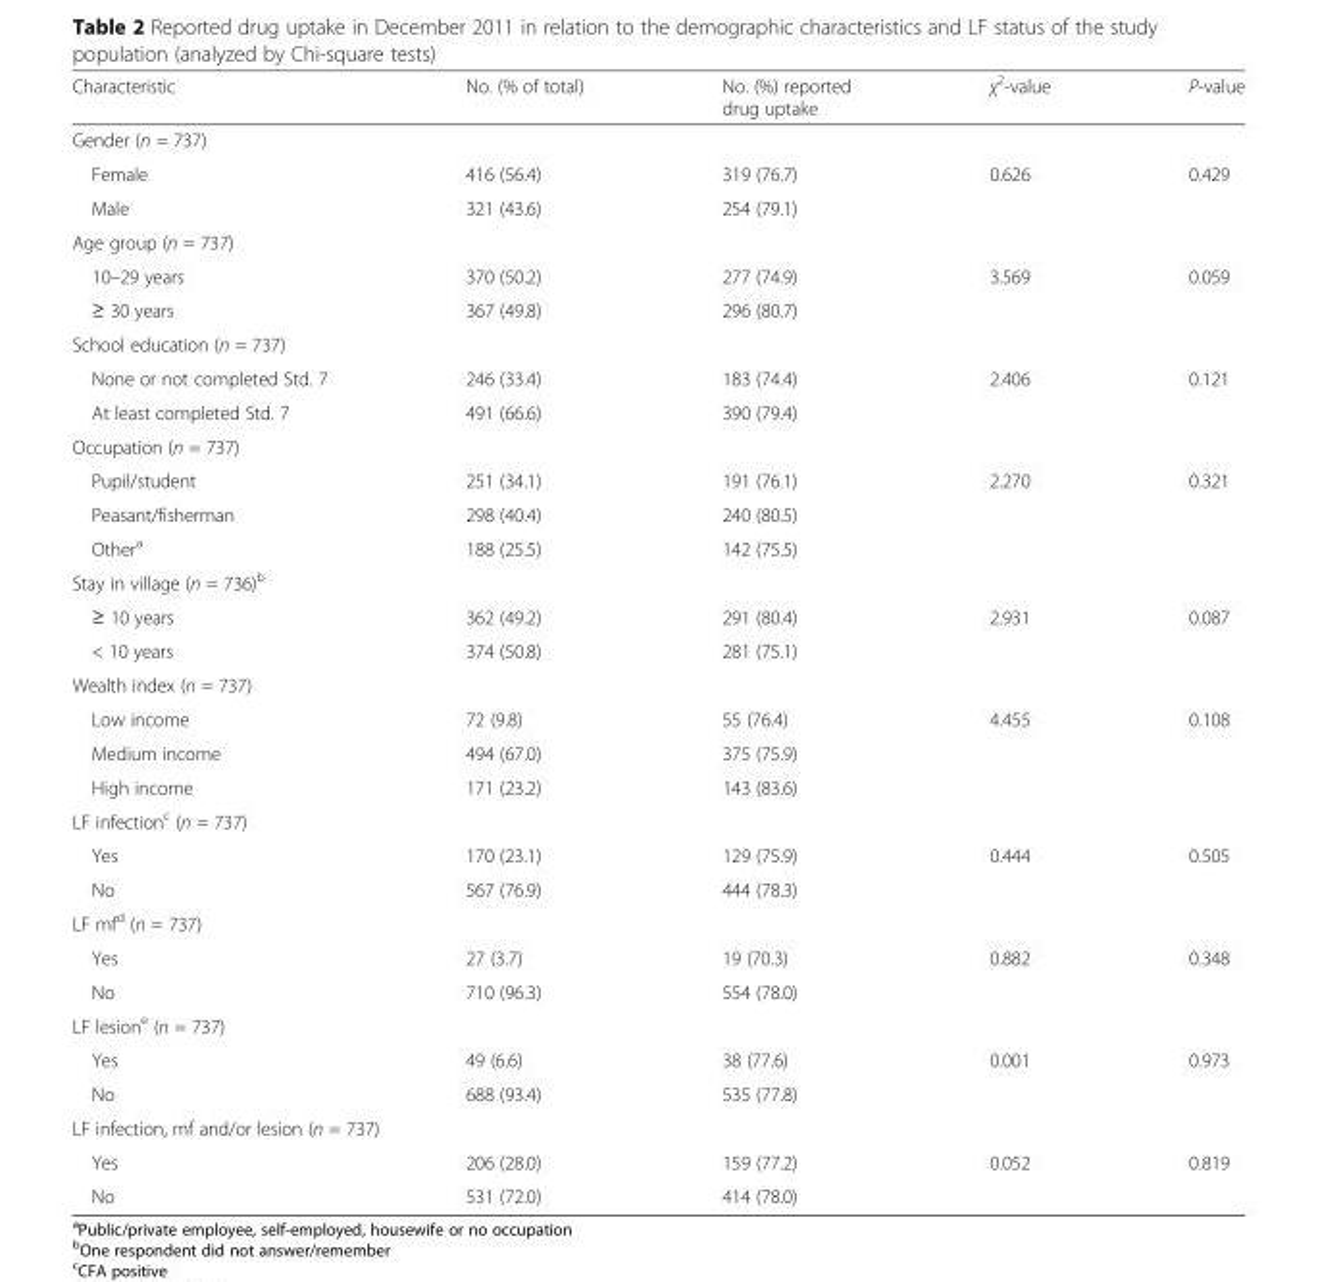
<table><thead><tr><td>Characteristic</td><td>No. (% of total)</td><td>No. (%) reported drug uptake</td><td>χ<sup>2</sup>-value</td><td>P-value</td></tr></thead><tbody><tr><td colspan="5">Gender (n = 737)</td></tr><tr><td>Female</td><td>416 (56.4)</td><td>319 (76.7)</td><td rowspan="2">0.626</td><td rowspan="2">0.429</td></tr><tr><td>Male</td><td>321 (43.6)</td><td>254 (79.1)</td></tr><tr><td colspan="5">Age group (n = 737)</td></tr><tr><td>10–29 years</td><td>370 (50.2)</td><td>277 (74.9)</td><td rowspan="2">3.569</td><td rowspan="2">0.059</td></tr><tr><td>≥ 30 years</td><td>367 (49.8)</td><td>296 (80.7)</td></tr><tr><td colspan="5">School education (n = 737)</td></tr><tr><td>None or not completed Std. 7</td><td>246 (33.4)</td><td>183 (74.4)</td><td rowspan="2">2.406</td><td rowspan="2">0.121</td></tr><tr><td>At least completed Std. 7</td><td>491 (66.6)</td><td>390 (79.4)</td></tr><tr><td colspan="5">Occupation (n = 737)</td></tr><tr><td>Pupil/student</td><td>251 (34.1)</td><td>191 (76.1)</td><td rowspan="3">2.270</td><td rowspan="3">0.321</td></tr><tr><td>Peasant/fisherman</td><td>298 (40.4)</td><td>240 (80.5)</td></tr><tr><td>Other<sup>a</sup></td><td>188 (25.5)</td><td>142 (75.5)</td></tr><tr><td colspan="5">Stay in village (n = 736)<sup>b</sup></td></tr><tr><td>≥ 10 years</td><td>362 (49.2)</td><td>291 (80.4)</td><td rowspan="2">2.931</td><td rowspan="2">0.087</td></tr><tr><td>&lt; 10 years</td><td>374 (50.8)</td><td>281 (75.1)</td></tr><tr><td colspan="5">Wealth index (n = 737)</td></tr><tr><td>Low income</td><td>72 (9.8)</td><td>55 (76.4)</td><td rowspan="3">4.455</td><td rowspan="3">0.108</td></tr><tr><td>Medium income</td><td>494 (67.0)</td><td>375 (75.9)</td></tr><tr><td>High income</td><td>171 (23.2)</td><td>143 (83.6)</td></tr><tr><td colspan="5">LF infection<sup>c</sup> (n = 737)</td></tr><tr><td>Yes</td><td>170 (23.1)</td><td>129 (75.9)</td><td rowspan="2">0.444</td><td rowspan="2">0.505</td></tr><tr><td>No</td><td>567 (76.9)</td><td>444 (78.3)</td></tr><tr><td colspan="5">LF mf<sup>d</sup> (n = 737)</td></tr><tr><td>Yes</td><td>27 (3.7)</td><td>19 (70.3)</td><td rowspan="2">0.882</td><td rowspan="2">0.348</td></tr><tr><td>No</td><td>710 (96.3)</td><td>554 (78.0)</td></tr><tr><td colspan="5">LF lesion<sup>e</sup> (n = 737)</td></tr><tr><td>Yes</td><td>49 (6.6)</td><td>38 (77.6)</td><td rowspan="2">0.001</td><td rowspan="2">0.973</td></tr><tr><td>No</td><td>688 (93.4)</td><td>535 (77.8)</td></tr><tr><td colspan="5">LF infection, mf and/or lesion (n = 737)</td></tr><tr><td>Yes</td><td>206 (28.0)</td><td>159 (77.2)</td><td rowspan="2">0.052</td><td rowspan="2">0.819</td></tr><tr><td>No</td><td>531 (72.0)</td><td>414 (78.0)</td></tr></tbody></table>